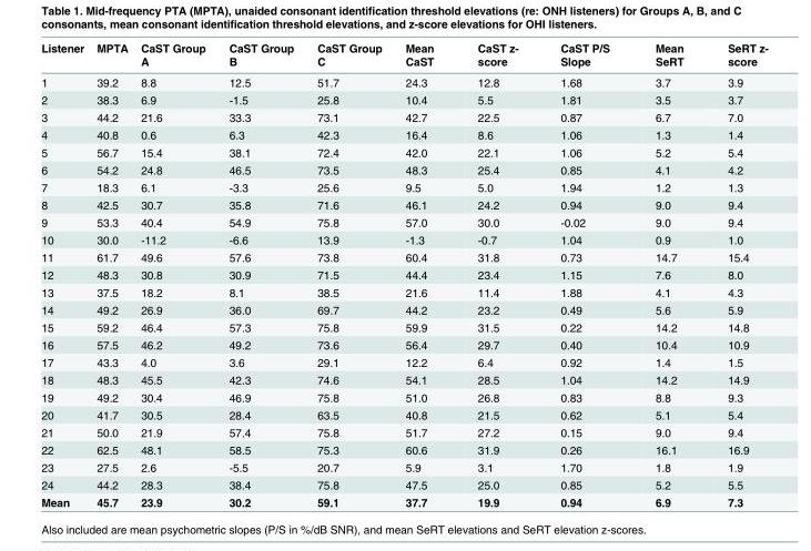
<table><thead><tr><td>Listener</td><td>MPTA</td><td>CaST Group A</td><td>CaST Group B</td><td>CaST Group C</td><td>Mean CaST</td><td>CaST z- score</td><td>CaST P/S Slope</td><td>Mean SeRT</td><td>SeRT z- score</td></tr></thead><tbody><tr><td>1</td><td>39.2</td><td>8.8</td><td>12.5</td><td>51.7</td><td>24.3</td><td>12.8</td><td>1.68</td><td>3.7</td><td>3.9</td></tr><tr><td>2</td><td>38.3</td><td>6.9</td><td>-1.5</td><td>25.8</td><td>10.4</td><td>5.5</td><td>1.81</td><td>3.5</td><td>3.7</td></tr><tr><td>3</td><td>44.2</td><td>21.6</td><td>33.3</td><td>73.1</td><td>42.7</td><td>22.5</td><td>0.87</td><td>6.7</td><td>7.0</td></tr><tr><td>4</td><td>40.8</td><td>0.6</td><td>6.3</td><td>42.3</td><td>16.4</td><td>8.6</td><td>1.06</td><td>1.3</td><td>1.4</td></tr><tr><td>5</td><td>56.7</td><td>15.4</td><td>38.1</td><td>72.4</td><td>42.0</td><td>22.1</td><td>1.06</td><td>5.2</td><td>5.4</td></tr><tr><td>6</td><td>54.2</td><td>24.8</td><td>46.5</td><td>73.5</td><td>48.3</td><td>25.4</td><td>0.85</td><td>4.1</td><td>4.2</td></tr><tr><td>7</td><td>18.3</td><td>6.1</td><td>-3.3</td><td>25.6</td><td>9.5</td><td>5.0</td><td>1.94</td><td>1.2</td><td>1.3</td></tr><tr><td>8</td><td>42.5</td><td>30.7</td><td>35.8</td><td>71.6</td><td>46.1</td><td>24.2</td><td>0.94</td><td>9.0</td><td>9.4</td></tr><tr><td>9</td><td>53.3</td><td>40.4</td><td>54.9</td><td>75.8</td><td>57.0</td><td>30.0</td><td>-0.02</td><td>9.0</td><td>9.4</td></tr><tr><td>10</td><td>30.0</td><td>-11.2</td><td>-6.6</td><td>13.9</td><td>-1.3</td><td>-0.7</td><td>1.04</td><td>0.9</td><td>1.0</td></tr><tr><td>11</td><td>61.7</td><td>49.6</td><td>57.6</td><td>73.8</td><td>60.4</td><td>31.8</td><td>0.73</td><td>14.7</td><td>15.4</td></tr><tr><td>12</td><td>48.3</td><td>30.8</td><td>30.9</td><td>71.5</td><td>44.4</td><td>23.4</td><td>1.15</td><td>7.6</td><td>8.0</td></tr><tr><td>13</td><td>37.5</td><td>18.2</td><td>8.1</td><td>38.5</td><td>21.6</td><td>11.4</td><td>1.88</td><td>4.1</td><td>4.3</td></tr><tr><td>14</td><td>49.2</td><td>26.9</td><td>36.0</td><td>69.7</td><td>44.2</td><td>23.2</td><td>0.49</td><td>5.6</td><td>5.9</td></tr><tr><td>15</td><td>59.2</td><td>46.4</td><td>57.3</td><td>75.8</td><td>59.9</td><td>31.5</td><td>0.22</td><td>14.2</td><td>14.8</td></tr><tr><td>16</td><td>57.5</td><td>46.2</td><td>49.2</td><td>73.6</td><td>56.4</td><td>29.7</td><td>0.40</td><td>10.4</td><td>10.9</td></tr><tr><td>17</td><td>43.3</td><td>4.0</td><td>3.6</td><td>29.1</td><td>12.2</td><td>6.4</td><td>0.92</td><td>1.4</td><td>1.5</td></tr><tr><td>18</td><td>48.3</td><td>45.5</td><td>42.3</td><td>74.6</td><td>54.1</td><td>28.5</td><td>1.04</td><td>14.2</td><td>14.9</td></tr><tr><td>19</td><td>49.2</td><td>30.4</td><td>46.9</td><td>75.8</td><td>51.0</td><td>26.8</td><td>0.83</td><td>8.8</td><td>9.3</td></tr><tr><td>20</td><td>41.7</td><td>30.5</td><td>28.4</td><td>63.5</td><td>40.8</td><td>21.5</td><td>0.62</td><td>5.1</td><td>5.4</td></tr><tr><td>21</td><td>50.0</td><td>21.9</td><td>57.4</td><td>75.8</td><td>51.7</td><td>27.2</td><td>0.15</td><td>9.0</td><td>9.4</td></tr><tr><td>22</td><td>62.5</td><td>48.1</td><td>58.5</td><td>75.3</td><td>60.6</td><td>31.9</td><td>0.26</td><td>16.1</td><td>16.9</td></tr><tr><td>23</td><td>27.5</td><td>2.6</td><td>-5.5</td><td>20.7</td><td>5.9</td><td>3.1</td><td>1.70</td><td>1.8</td><td>1.9</td></tr><tr><td>24</td><td>44.2</td><td>28.3</td><td>38.4</td><td>75.8</td><td>47.5</td><td>25.0</td><td>0.85</td><td>5.2</td><td>5.5</td></tr><tr><td>Mean</td><td>45.7</td><td>23.9</td><td>30.2</td><td>59.1</td><td>37.7</td><td>19.9</td><td>0.94</td><td>6.9</td><td>7.3</td></tr></tbody></table>